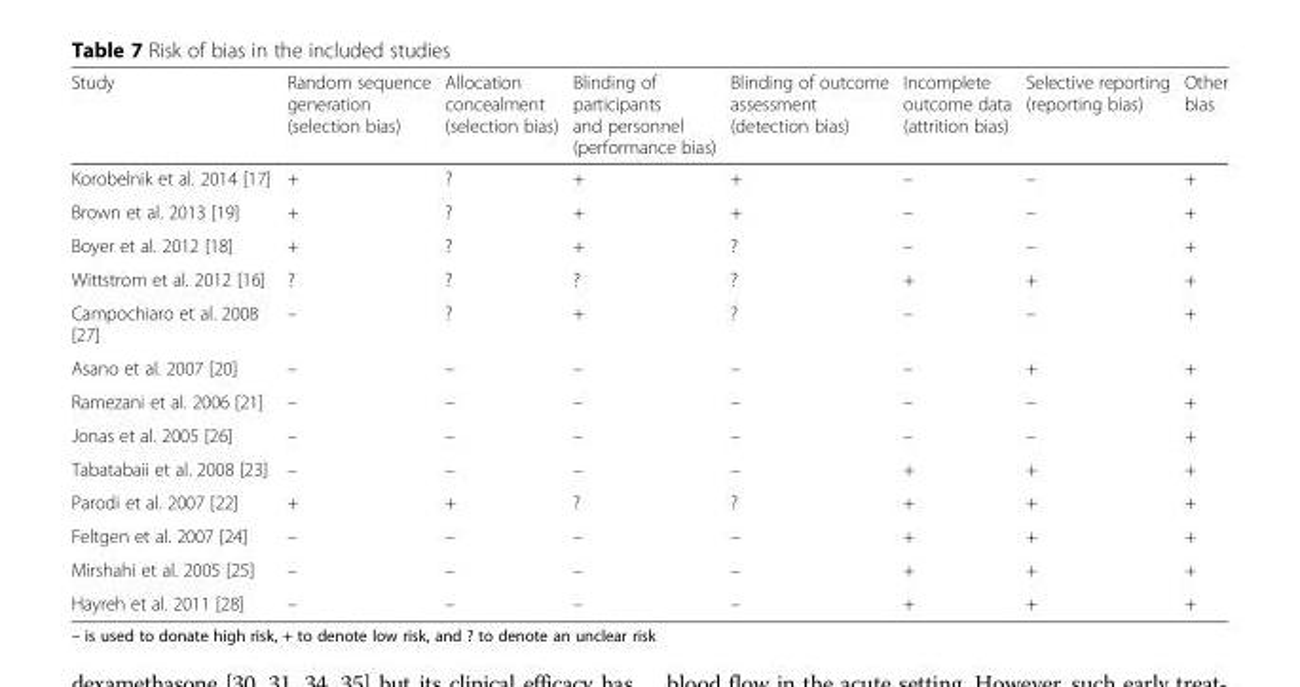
<table><thead><tr><td>Study</td><td>Random sequence generation (selection bias)</td><td>Allocation concealment (selection bias)</td><td>Blinding of participants and personnel (performance bias)</td><td>Blinding of outcome assessment (detection bias)</td><td>Incomplete outcome data (attrition bias)</td><td>Selective reporting (reporting bias)</td><td>Other bias</td></tr></thead><tbody><tr><td>Korobelnik et al. 2014 [17]</td><td>+</td><td>?</td><td>+</td><td>+</td><td>–</td><td>–</td><td>+</td></tr><tr><td>Brown et al. 2013 [19]</td><td>+</td><td>?</td><td>+</td><td>+</td><td>–</td><td>–</td><td>+</td></tr><tr><td>Boyer et al. 2012 [18]</td><td>+</td><td>?</td><td>+</td><td>?</td><td>–</td><td>–</td><td>+</td></tr><tr><td>Wittstrom et al. 2012 [16]</td><td>?</td><td>?</td><td>?</td><td>?</td><td>+</td><td>+</td><td>+</td></tr><tr><td>Campochiaro et al. 2008 [27]</td><td>–</td><td>?</td><td>+</td><td>?</td><td>–</td><td>–</td><td>+</td></tr><tr><td>Asano et al. 2007 [20]</td><td>–</td><td>–</td><td>–</td><td>–</td><td>–</td><td>+</td><td>+</td></tr><tr><td>Ramezani et al. 2006 [21]</td><td>–</td><td>–</td><td>–</td><td>–</td><td>–</td><td>–</td><td>+</td></tr><tr><td>Jonas et al. 2005 [26]</td><td>–</td><td>–</td><td>–</td><td>–</td><td>–</td><td>–</td><td>+</td></tr><tr><td>Tabatabaii et al. 2008 [23]</td><td>–</td><td>–</td><td>–</td><td>–</td><td>+</td><td>+</td><td>+</td></tr><tr><td>Parodi et al. 2007 [22]</td><td>+</td><td>+</td><td>?</td><td>?</td><td>+</td><td>+</td><td>+</td></tr><tr><td>Feltgen et al. 2007 [24]</td><td>–</td><td>–</td><td>–</td><td>–</td><td>+</td><td>+</td><td>+</td></tr><tr><td>Mirshahi et al. 2005 [25]</td><td>–</td><td>–</td><td>–</td><td>–</td><td>+</td><td>+</td><td>+</td></tr><tr><td>Hayreh et al. 2011 [28]</td><td>–</td><td>–</td><td>–</td><td>–</td><td>+</td><td>+</td><td>+</td></tr></tbody></table>